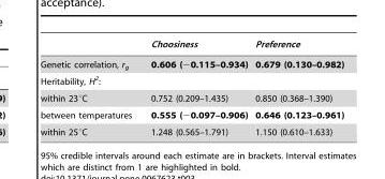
<table><thead><tr><td></td><td>Choosiness</td><td>Preference</td></tr></thead><tbody><tr><td>Genetic correlation, r<sub>g</sub></td><td>0.606 (−0.115–0.934)</td><td>0.679 (0.130–0.982)</td></tr><tr><td colspan="3">Heritability, H<sup>2</sup>:</td></tr><tr><td>within 23°C</td><td>0.752 (0.209–1.435)</td><td>0.850 (0.368–1.390)</td></tr><tr><td>between temperatures</td><td>0.555 (−0.097–0.906)</td><td>0.646 (0.123–0.961)</td></tr><tr><td>within 25°C</td><td>1.248 (0.565–1.791)</td><td>1.150 (0.610–1.633)</td></tr></tbody></table>